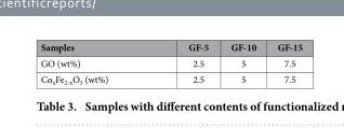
<table><thead><tr><td>Samples</td><td>GF-5</td><td>GF-10</td><td>GF-15</td></tr></thead><tbody><tr><td>GO (wt%)</td><td>2.5</td><td>5</td><td>7.5</td></tr><tr><td>Co<sub>x</sub>Fe<sub>2-x</sub>O<sub>3</sub> (wt%)</td><td>2.5</td><td>5</td><td>7.5</td></tr></tbody></table>